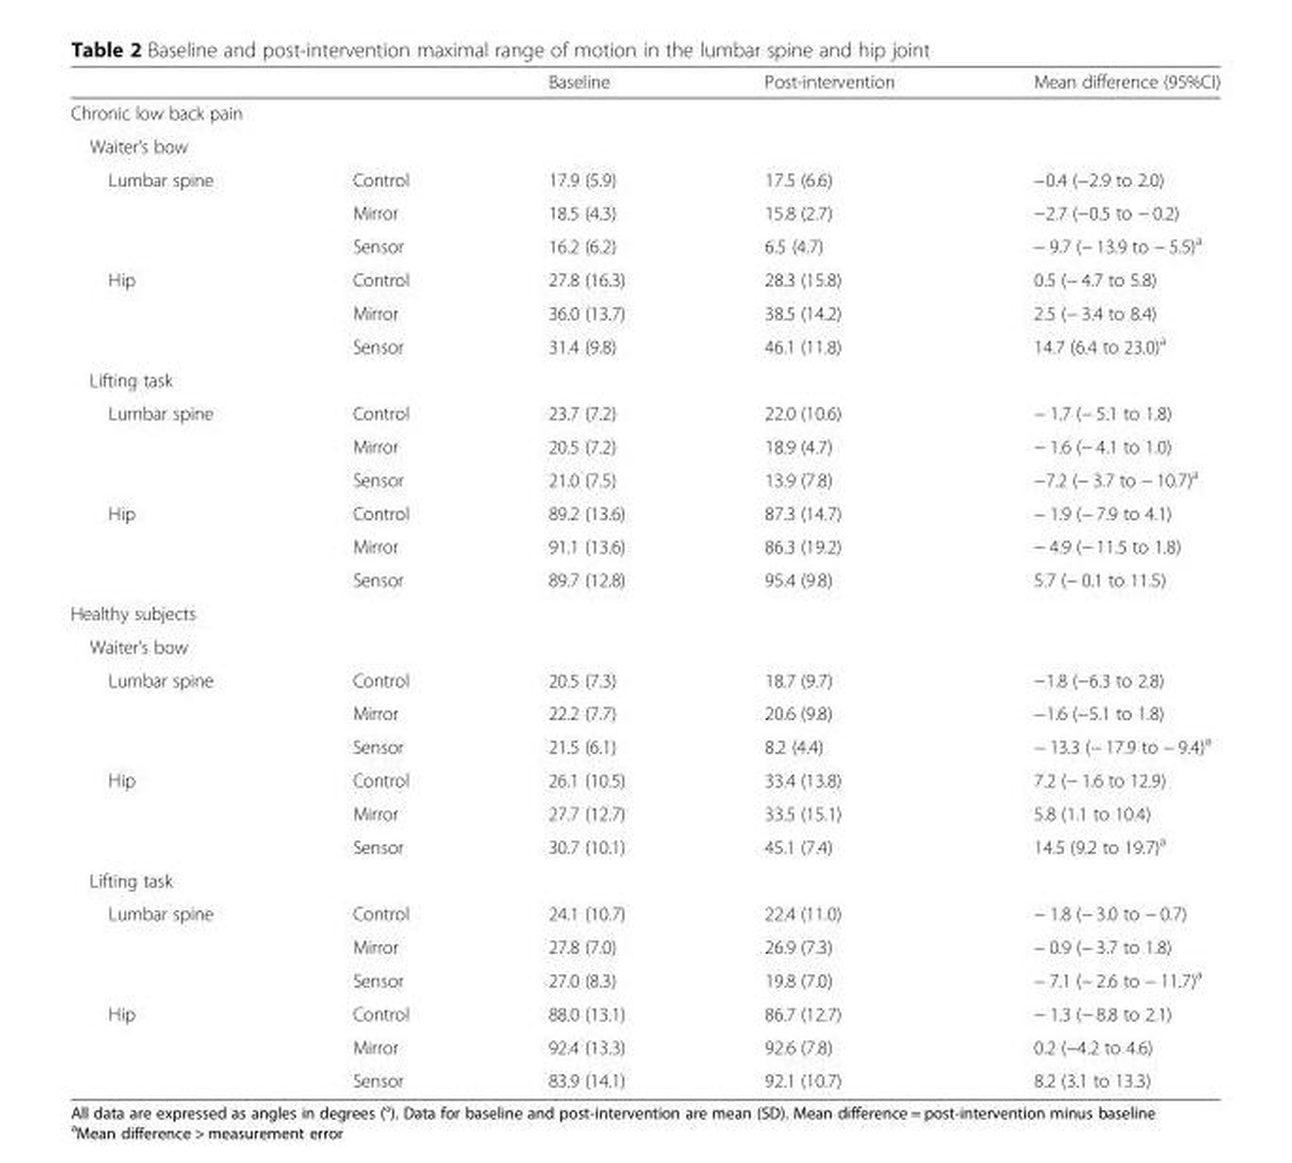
<table><thead><tr><td></td><td></td><td>Baseline</td><td>Post-intervention</td><td>Mean difference (95%CI)</td></tr></thead><tbody><tr><td colspan="5">Chronic low back pain</td></tr><tr><td colspan="5">Waiter’s bow</td></tr><tr><td rowspan="3">Lumbar spine</td><td>Control</td><td>17.9 (5.9)</td><td>17.5 (6.6)</td><td>−0.4 (−2.9 to 2.0)</td></tr><tr><td>Mirror</td><td>18.5 (4.3)</td><td>15.8 (2.7)</td><td>−2.7 (−0.5 to − 0.2)</td></tr><tr><td>Sensor</td><td>16.2 (6.2)</td><td>6.5 (4.7)</td><td>− 9.7 (− 13.9 to − 5.5)<sup>a</sup></td></tr><tr><td rowspan="3">Hip</td><td>Control</td><td>27.8 (16.3)</td><td>28.3 (15.8)</td><td>0.5 (− 4.7 to 5.8)</td></tr><tr><td>Mirror</td><td>36.0 (13.7)</td><td>38.5 (14.2)</td><td>2.5 (− 3.4 to 8.4)</td></tr><tr><td>Sensor</td><td>31.4 (9.8)</td><td>46.1 (11.8)</td><td>14.7 (6.4 to 23.0)<sup>a</sup></td></tr><tr><td colspan="5">Lifting task</td></tr><tr><td rowspan="3">Lumbar spine</td><td>Control</td><td>23.7 (7.2)</td><td>22.0 (10.6)</td><td>− 1.7 (− 5.1 to 1.8)</td></tr><tr><td>Mirror</td><td>20.5 (7.2)</td><td>18.9 (4.7)</td><td>− 1.6 (− 4.1 to 1.0)</td></tr><tr><td>Sensor</td><td>21.0 (7.5)</td><td>13.9 (7.8)</td><td>−7.2 (− 3.7 to − 10.7)<sup>a</sup></td></tr><tr><td rowspan="3">Hip</td><td>Control</td><td>89.2 (13.6)</td><td>87.3 (14.7)</td><td>− 1.9 (− 7.9 to 4.1)</td></tr><tr><td>Mirror</td><td>91.1 (13.6)</td><td>86.3 (19.2)</td><td>− 4.9 (− 11.5 to 1.8)</td></tr><tr><td>Sensor</td><td>89.7 (12.8)</td><td>95.4 (9.8)</td><td>5.7 (− 0.1 to 11.5)</td></tr><tr><td colspan="5">Healthy subjects</td></tr><tr><td colspan="5">Waiter’s bow</td></tr><tr><td rowspan="3">Lumbar spine</td><td>Control</td><td>20.5 (7.3)</td><td>18.7 (9.7)</td><td>−1.8 (−6.3 to 2.8)</td></tr><tr><td>Mirror</td><td>22.2 (7.7)</td><td>20.6 (9.8)</td><td>−1.6 (−5.1 to 1.8)</td></tr><tr><td>Sensor</td><td>21.5 (6.1)</td><td>8.2 (4.4)</td><td>− 13.3 (− 17.9 to − 9.4)<sup>a</sup></td></tr><tr><td rowspan="3">Hip</td><td>Control</td><td>26.1 (10.5)</td><td>33.4 (13.8)</td><td>7.2 (− 1.6 to 12.9)</td></tr><tr><td>Mirror</td><td>27.7 (12.7)</td><td>33.5 (15.1)</td><td>5.8 (1.1 to 10.4)</td></tr><tr><td>Sensor</td><td>30.7 (10.1)</td><td>45.1 (7.4)</td><td>14.5 (9.2 to 19.7)<sup>a</sup></td></tr><tr><td colspan="5">Lifting task</td></tr><tr><td rowspan="3">Lumbar spine</td><td>Control</td><td>24.1 (10.7)</td><td>22.4 (11.0)</td><td>− 1.8 (− 3.0 to − 0.7)</td></tr><tr><td>Mirror</td><td>27.8 (7.0)</td><td>26.9 (7.3)</td><td>− 0.9 (− 3.7 to 1.8)</td></tr><tr><td>Sensor</td><td>27.0 (8.3)</td><td>19.8 (7.0)</td><td>− 7.1 (− 2.6 to − 11.7)<sup>a</sup></td></tr><tr><td rowspan="3">Hip</td><td>Control</td><td>88.0 (13.1)</td><td>86.7 (12.7)</td><td>− 1.3 (− 8.8 to 2.1)</td></tr><tr><td>Mirror</td><td>92.4 (13.3)</td><td>92.6 (7.8)</td><td>0.2 (−4.2 to 4.6)</td></tr><tr><td>Sensor</td><td>83.9 (14.1)</td><td>92.1 (10.7)</td><td>8.2 (3.1 to 13.3)</td></tr></tbody></table>